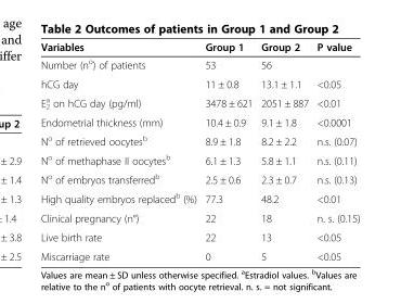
<table><thead><tr><td>Variables</td><td>Group 1</td><td>Group 2</td><td>P value</td></tr></thead><tbody><tr><td>Number (n<sup>o</sup>) of patients</td><td>53</td><td>56</td><td></td></tr><tr><td>hCG day</td><td>11 ± 0.8</td><td>13.1 ± 1.1</td><td>&lt;0.05</td></tr><tr><td>E<sub>2</sub> <sup>a</sup> on hCG day (pg/ml)</td><td>3478 ± 621</td><td>2051 ± 887</td><td>&lt;0.01</td></tr><tr><td>Endometrial thickness (mm)</td><td>10.4 ± 0.9</td><td>9.1 ± 1.8</td><td>&lt;0.0001</td></tr><tr><td>N<sup>o</sup> of retrieved oocytes<sup>b</sup></td><td>8.9 ± 1.8</td><td>8.2 ± 2.2</td><td>n.s. (0.07)</td></tr><tr><td>N<sup>o</sup> of methaphase II oocytes<sup>b</sup></td><td>6.1 ± 1.3</td><td>5.8 ± 1.1</td><td>n.s. (0.11)</td></tr><tr><td>N<sup>o</sup> of embryos transferred<sup>b</sup></td><td>2.5 ± 0.6</td><td>2.3 ± 0.7</td><td>n.s. (0.13)</td></tr><tr><td>High quality embryos replaced<sup>b</sup> (%)</td><td>77.3</td><td>48.2</td><td>&lt;0.01</td></tr><tr><td>Clinical pregnancy (n°)</td><td>22</td><td>18</td><td>n. s. (0.15)</td></tr><tr><td>Live birth rate</td><td>22</td><td>13</td><td>&lt;0.05</td></tr><tr><td>Miscarriage rate</td><td>0</td><td>5</td><td>&lt;0.05</td></tr></tbody></table>